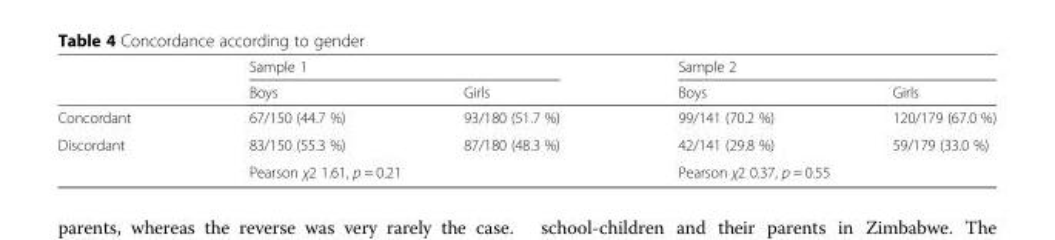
<table><thead><tr><td rowspan="2"></td><td colspan="2">Sample 1</td><td colspan="2">Sample 2</td></tr><tr><td>Boys</td><td>Girls</td><td>Boys</td><td>Girls</td></tr></thead><tbody><tr><td>Concordant</td><td>67/150 (44.7 %)</td><td>93/180 (51.7 %)</td><td>99/141 (70.2 %)</td><td>120/179 (67.0 %)</td></tr><tr><td rowspan="2">Discordant</td><td>83/150 (55.3 %)</td><td>87/180 (48.3 %)</td><td>42/141 (29.8 %)</td><td>59/179 (33.0 %)</td></tr><tr><td colspan="2">Pearson χ2 1.61, p = 0.21</td><td colspan="2">Pearson χ2 0.37, p = 0.55</td></tr></tbody></table>